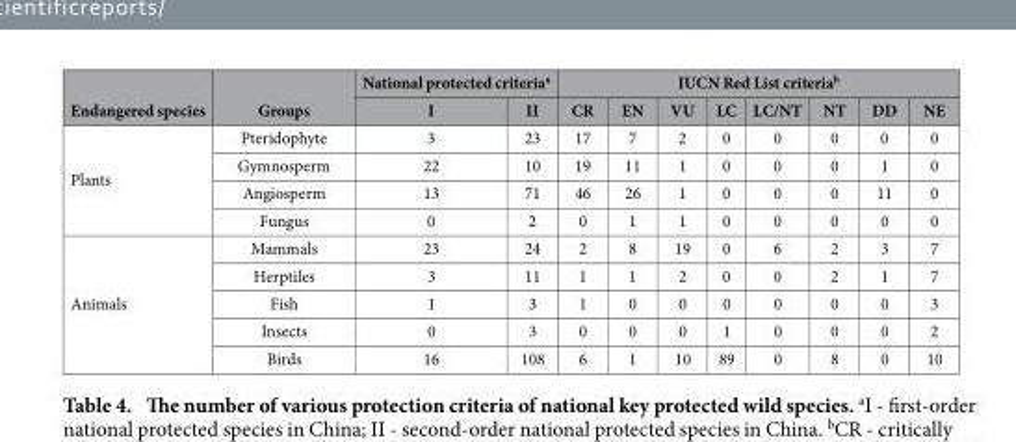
<table><thead><tr><td rowspan="2">Endangered species</td><td rowspan="2">Groups</td><td colspan="2">National protected criteria<sup>a</sup></td><td colspan="8">IUCN Red List criteria<sup>b</sup></td></tr><tr><td>I</td><td>II</td><td>CR</td><td>EN</td><td>VU</td><td>LC</td><td>LC/NT</td><td>NT</td><td>DD</td><td>NE</td></tr></thead><tbody><tr><td rowspan="4">Plants</td><td>Pteridophyte</td><td>3</td><td>23</td><td>17</td><td>7</td><td>2</td><td>0</td><td>0</td><td>0</td><td>0</td><td>0</td></tr><tr><td>Gymnosperm</td><td>22</td><td>10</td><td>19</td><td>11</td><td>1</td><td>0</td><td>0</td><td>0</td><td>1</td><td>0</td></tr><tr><td>Angiosperm</td><td>13</td><td>71</td><td>46</td><td>26</td><td>1</td><td>0</td><td>0</td><td>0</td><td>11</td><td>0</td></tr><tr><td>Fungus</td><td>0</td><td>2</td><td>0</td><td>1</td><td>1</td><td>0</td><td>0</td><td>0</td><td>0</td><td>0</td></tr><tr><td rowspan="5">Animals</td><td>Mammals</td><td>23</td><td>24</td><td>2</td><td>8</td><td>19</td><td>0</td><td>6</td><td>2</td><td>3</td><td>7</td></tr><tr><td>Herptiles</td><td>3</td><td>11</td><td>1</td><td>1</td><td>2</td><td>0</td><td>0</td><td>2</td><td>1</td><td>7</td></tr><tr><td>Fish</td><td>1</td><td>3</td><td>1</td><td>0</td><td>0</td><td>0</td><td>0</td><td>0</td><td>0</td><td>3</td></tr><tr><td>Insects</td><td>0</td><td>3</td><td>0</td><td>0</td><td>0</td><td>1</td><td>0</td><td>0</td><td>0</td><td>2</td></tr><tr><td>Birds</td><td>16</td><td>108</td><td>6</td><td>1</td><td>10</td><td>89</td><td>0</td><td>8</td><td>0</td><td>10</td></tr></tbody></table>